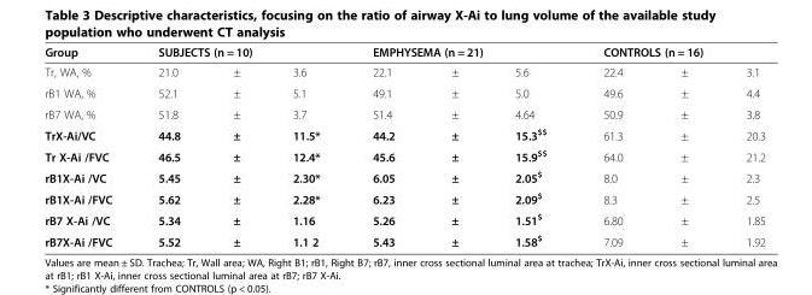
<table><thead><tr><td rowspan="2">Group Tr, WA, %</td><td colspan="3">SUBJECTS (n = 10)</td><td colspan="3">EMPHYSEMA (n = 21)</td><td colspan="3">CONTROLS (n = 16)</td></tr><tr><td>21.0</td><td>±</td><td>3.6</td><td>22.1</td><td>±</td><td>5.6</td><td>22.4</td><td>±</td><td>3.1</td></tr></thead><tbody><tr><td>rB1 WA, %</td><td>52.1</td><td>±</td><td>5.1</td><td>49.1</td><td>±</td><td>5.0</td><td>49.6</td><td>±</td><td>4.4</td></tr><tr><td>rB7 WA, %</td><td>51.8</td><td>±</td><td>3.7</td><td>51.4</td><td>±</td><td>4.64</td><td>50.9</td><td>±</td><td>3.8</td></tr><tr><td>TrX-Ai/VC</td><td>44.8</td><td>±</td><td>11.5*</td><td>44.2</td><td>±</td><td>15.3<sup>$$</sup></td><td>61.3</td><td>±</td><td>20.3</td></tr><tr><td>Tr X-Ai /FVC</td><td>46.5</td><td>±</td><td>12.4*</td><td>45.6</td><td>±</td><td>15.9<sup>$$</sup></td><td>64.0</td><td>±</td><td>21.2</td></tr><tr><td>rB1X-Ai /VC</td><td>5.45</td><td>±</td><td>2.30*</td><td>6.05</td><td>±</td><td>2.05<sup>$</sup></td><td>8.0</td><td>±</td><td>2.3</td></tr><tr><td>rB1X-Ai /FVC</td><td>5.62</td><td>±</td><td>2.28*</td><td>6.23</td><td>±</td><td>2.09<sup>$</sup></td><td>8.3</td><td>±</td><td>2.5</td></tr><tr><td>rB7 X-Ai /VC</td><td>5.34</td><td>±</td><td>1.16</td><td>5.26</td><td>±</td><td>1.51<sup>$</sup></td><td>6.80</td><td>±</td><td>1.85</td></tr><tr><td>rB7X-Ai /FVC</td><td>5.52</td><td>±</td><td>1.1 2</td><td>5.43</td><td>±</td><td>1.58<sup>$</sup></td><td>7.09</td><td>±</td><td>1.92</td></tr></tbody></table>